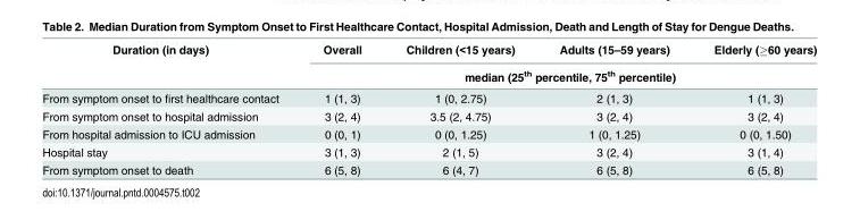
<table><thead><tr><td rowspan="2">Duration (in days)</td><td>Overall</td><td>Children (&lt;15 years)</td><td>Adults (15–59 years)</td><td>Elderly (≥60 years)</td></tr><tr><td colspan="4">median (25<sup>th</sup> percentile, 75<sup>th</sup> percentile)</td></tr></thead><tbody><tr><td>From symptom onset to first healthcare contact</td><td>1 (1, 3)</td><td>1 (0, 2.75)</td><td>2 (1, 3)</td><td>1 (1, 3)</td></tr><tr><td>From symptom onset to hospital admission</td><td>3 (2, 4)</td><td>3.5 (2, 4.75)</td><td>3 (2, 4)</td><td>3 (2, 4)</td></tr><tr><td>From hospital admission to ICU admission</td><td>0 (0, 1)</td><td>0 (0, 1.25)</td><td>1 (0, 1.25)</td><td>0 (0, 1.50)</td></tr><tr><td>Hospital stay</td><td>3 (1, 3)</td><td>2 (1, 5)</td><td>3 (2, 4)</td><td>3 (1, 4)</td></tr><tr><td>From symptom onset to death</td><td>6 (5, 8)</td><td>6 (4, 7)</td><td>6 (5, 8)</td><td>6 (5, 8)</td></tr></tbody></table>